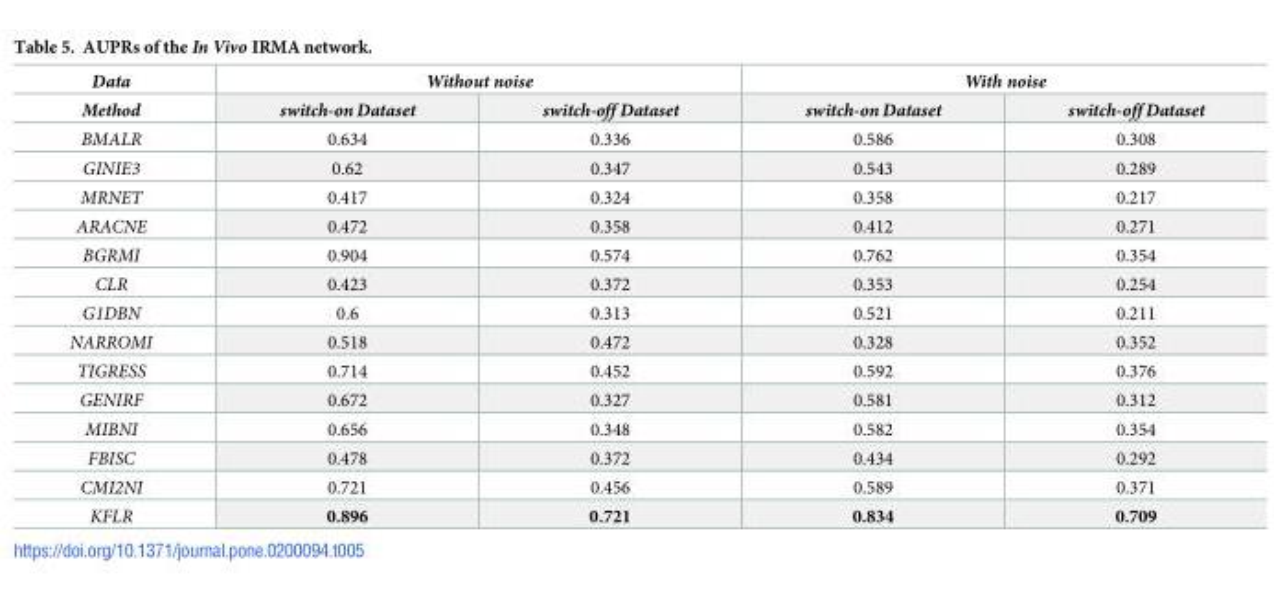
<table><thead><tr><td rowspan="2">Data Method</td><td colspan="2">Without noise</td><td colspan="2">With noise</td></tr><tr><td>switch-on Dataset</td><td>switch-off Dataset</td><td>switch-on Dataset</td><td>switch-off Dataset</td></tr></thead><tbody><tr><td>BMALR</td><td>0.634</td><td>0.336</td><td>0.586</td><td>0.308</td></tr><tr><td>GINIE3</td><td>0.62</td><td>0.347</td><td>0.543</td><td>0.289</td></tr><tr><td>MRNET</td><td>0.417</td><td>0.324</td><td>0.358</td><td>0.217</td></tr><tr><td>ARACNE</td><td>0.472</td><td>0.358</td><td>0.412</td><td>0.271</td></tr><tr><td>BGRMI</td><td>0.904</td><td>0.574</td><td>0.762</td><td>0.354</td></tr><tr><td>CLR</td><td>0.423</td><td>0.372</td><td>0.353</td><td>0.254</td></tr><tr><td>G1DBN</td><td>0.6</td><td>0.313</td><td>0.521</td><td>0.211</td></tr><tr><td>NARROMI</td><td>0.518</td><td>0.472</td><td>0.328</td><td>0.352</td></tr><tr><td>TIGRESS</td><td>0.714</td><td>0.452</td><td>0.592</td><td>0.376</td></tr><tr><td>GENIRF</td><td>0.672</td><td>0.327</td><td>0.581</td><td>0.312</td></tr><tr><td>MIBNI</td><td>0.656</td><td>0.348</td><td>0.582</td><td>0.354</td></tr><tr><td>FBISC</td><td>0.478</td><td>0.372</td><td>0.434</td><td>0.292</td></tr><tr><td>CMI2NI</td><td>0.721</td><td>0.456</td><td>0.589</td><td>0.371</td></tr><tr><td>KFLR</td><td>0.896</td><td>0.721</td><td>0.834</td><td>0.709</td></tr></tbody></table>